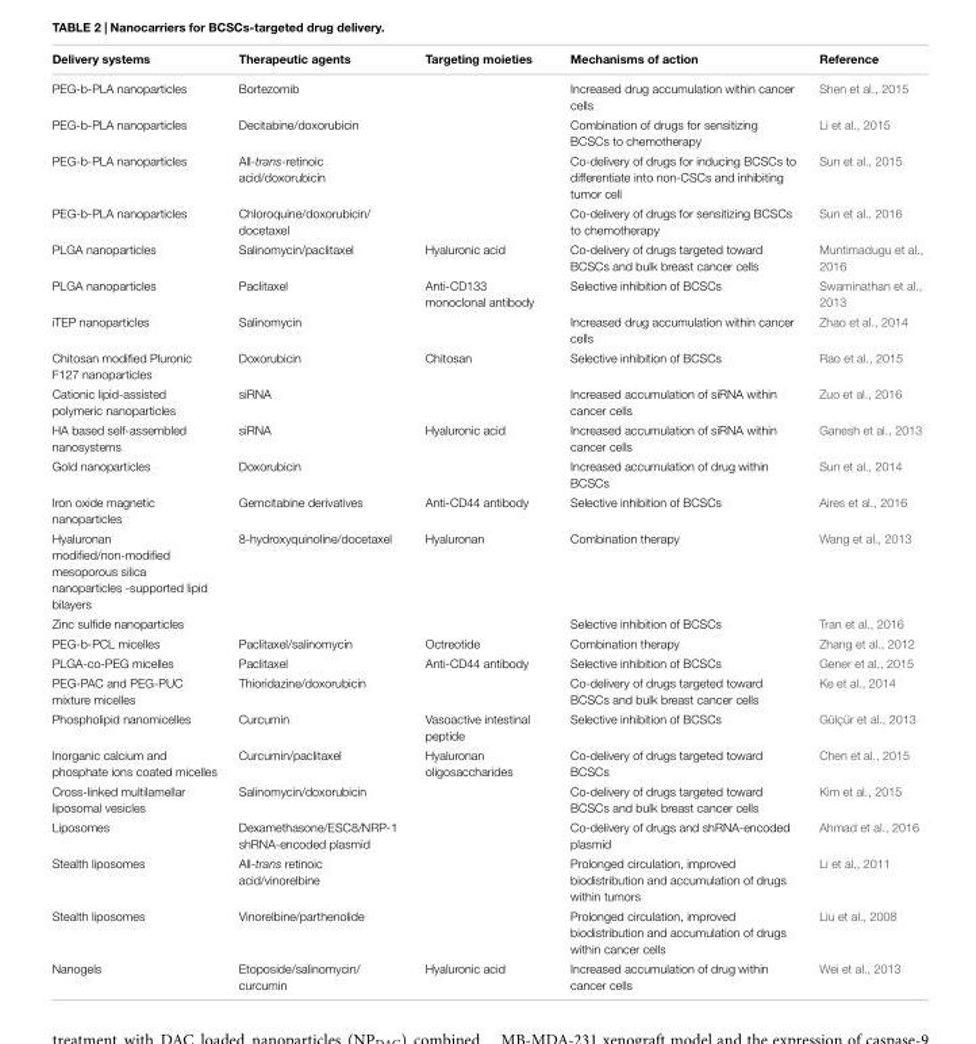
<table><thead><tr><td>Delivery systems</td><td>Therapeutic agents</td><td>Targeting moieties</td><td>Mechanisms of action</td><td>Reference</td></tr></thead><tbody><tr><td>PEG-b-PLA nanoparticles</td><td>Bortezomib</td><td></td><td>Increased drug accumulation within cancer cells</td><td>Shen et al., 2015</td></tr><tr><td>PEG-b-PLA nanoparticles</td><td>Decitabine/doxorubicin</td><td></td><td>Combination of drugs for sensitizing BCSCs to chemotherapy</td><td>Li et al., 2015</td></tr><tr><td>PEG-b-PLA nanoparticles</td><td>All-trans-retinoic acid/doxorubicin</td><td></td><td>Co-delivery of drugs for inducing BCSCs to differentiate into non-CSCs and inhibiting tumor cell</td><td>Sun et al., 2015</td></tr><tr><td>PEG-b-PLA nanoparticles</td><td>Chloroquine/doxorubicin/ docetaxel</td><td></td><td>Co-delivery of drugs for sensitizing BCSCs to chemotherapy</td><td>Sun et al., 2016</td></tr><tr><td>PLGA nanoparticles</td><td>Salinomycin/paclitaxel</td><td>Hyaluronic acid</td><td>Co-delivery of drugs targeted toward BCSCs and bulk breast cancer cells</td><td>Muntimadugu et al., 2016</td></tr><tr><td>PLGA nanoparticles</td><td>Paclitaxel</td><td>Anti-CD133 monoclonal antibody</td><td>Selective inhibition of BCSCs</td><td>Swaminathan et al., 2013</td></tr><tr><td>iTEP nanoparticles</td><td>Salinomycin</td><td></td><td>Increased drug accumulation within cancer cells</td><td>Zhao et al., 2014</td></tr><tr><td>Chitosan modified Pluronic F127 nanoparticles</td><td>Doxorubicin</td><td>Chitosan</td><td>Selective inhibition of BCSCs</td><td>Rao et al., 2015</td></tr><tr><td>Cationic lipid-assisted polymeric nanoparticles</td><td>siRNA</td><td></td><td>Increased accumulation of siRNA within cancer cells</td><td>Zuo et al., 2016</td></tr><tr><td>HA based self-assembled nanosystems</td><td>siRNA</td><td>Hyaluronic acid</td><td>Increased accumulation of siRNA within cancer cells</td><td>Ganesh et al., 2013</td></tr><tr><td>Gold nanoparticles</td><td>Doxorubicin</td><td></td><td>Increased accumulation of drug within BCSCs</td><td>Sun et al., 2014</td></tr><tr><td>Iron oxide magnetic nanoparticles</td><td>Gemcitabine derivatives</td><td>Anti-CD44 antibody</td><td>Selective inhibition of BCSCs</td><td>Aires et al., 2016</td></tr><tr><td>Hyaluronan modified/non-modified mesoporous silica nanoparticles -supported lipid bilayers</td><td>8-hydroxyquinoline/docetaxel</td><td>Hyaluronan</td><td>Combination therapy</td><td>Wang et al., 2013</td></tr><tr><td>Zinc sulfide nanoparticles</td><td></td><td></td><td>Selective inhibition of BCSCs</td><td>Tran et al., 2016</td></tr><tr><td>PEG-b-PCL micelles</td><td>Paclitaxel/salinomycin</td><td>Octreotide</td><td>Combination therapy</td><td>Zhang et al., 2012</td></tr><tr><td>PLGA-co-PEG micelles</td><td>Paclitaxel</td><td>Anti-CD44 antibody</td><td>Selective inhibition of BCSCs</td><td>Gener et al., 2015</td></tr><tr><td>PEG-PAC and PEG-PUC mixture micelles</td><td>Thioridazine/doxorubicin</td><td></td><td>Co-delivery of drugs targeted toward BCSCs and bulk breast cancer cells</td><td>Ke et al., 2014</td></tr><tr><td>Phospholipid nanomicelles</td><td>Curcumin</td><td>Vasoactive intestinal peptide</td><td>Selective inhibition of BCSCs</td><td>Gülçür et al., 2013</td></tr><tr><td>Inorganic calcium and phosphate ions coated micelles</td><td>Curcumin/paclitaxel</td><td>Hyaluronan oligosaccharides</td><td>Co-delivery of drugs targeted toward BCSCs</td><td>Chen et al., 2015</td></tr><tr><td>Cross-linked multilamellar liposomal vesicles</td><td>Salinomycin/doxorubicin</td><td></td><td>Co-delivery of drugs targeted toward BCSCs and bulk breast cancer cells</td><td>Kim et al., 2015</td></tr><tr><td>Liposomes</td><td>Dexamethasone/ESC8/NRP-1 shRNA-encoded plasmid</td><td></td><td>Co-delivery of drugs and shRNA-encoded plasmid</td><td>Ahmad et al., 2016</td></tr><tr><td>Stealth liposomes</td><td>All-trans retinoic acid/vinorelbine</td><td></td><td>Prolonged circulation, improved biodistribution and accumulation of drugs within tumors</td><td>Li et al., 2011</td></tr><tr><td>Stealth liposomes</td><td>Vinorelbine/parthenolide</td><td></td><td>Prolonged circulation, improved biodistribution and accumulation of drugs within cancer cells</td><td>Liu et al., 2008</td></tr><tr><td>Nanogels</td><td>Etoposide/salinomycin/ curcumin</td><td>Hyaluronic acid</td><td>Increased accumulation of drug within cancer cells</td><td>Wei et al., 2013</td></tr></tbody></table>